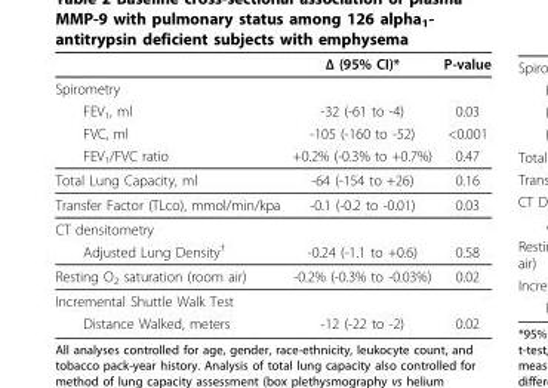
<table><thead><tr><td></td><td>Δ (95% CI)*</td><td>P-value</td></tr></thead><tbody><tr><td colspan="3">Spirometry</td></tr><tr><td>FEV<sub>1</sub>, ml</td><td>-32 (-61 to -4)</td><td>0.03</td></tr><tr><td>FVC, ml</td><td>-105 (-160 to -52)</td><td>&lt;0.001</td></tr><tr><td>FEV<sub>1</sub>/FVC ratio</td><td>+0.2% (-0.3% to +0.7%)</td><td>0.47</td></tr><tr><td>Total Lung Capacity, ml</td><td>-64 (-154 to +26)</td><td>0.16</td></tr><tr><td>Transfer Factor (TLco), mmol/min/kpa</td><td>-0.1 (-0.2 to -0.01)</td><td>0.03</td></tr><tr><td colspan="3">CT densitometry</td></tr><tr><td>Adjusted Lung Density<sup>†</sup></td><td>-0.24 (-1.1 to +0.6)</td><td>0.58</td></tr><tr><td>Resting O<sub>2</sub> saturation (room air)</td><td>-0.2% (-0.3% to -0.03%)</td><td>0.02</td></tr><tr><td colspan="3">Incremental Shuttle Walk Test</td></tr><tr><td>Distance Walked, meters</td><td>-12 (-22 to -2)</td><td>0.02</td></tr></tbody></table>